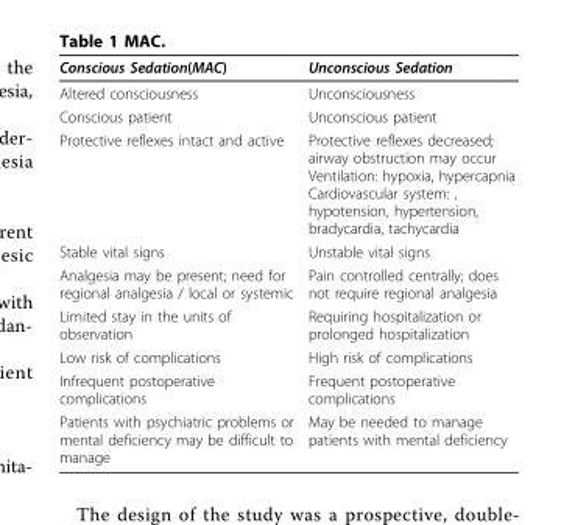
<table><thead><tr><td>Conscious Sedation(MAC)</td><td>Unconscious Sedation</td></tr></thead><tbody><tr><td>Altered consciousness</td><td>Unconsciousness</td></tr><tr><td>Conscious patient</td><td>Unconscious patient</td></tr><tr><td>Protective reflexes intact and active</td><td>Protective reflexes decreased; airway obstruction may occur Ventilation: hypoxia, hypercapnia Cardiovascular system: , hypotension, hypertension, bradycardia, tachycardia</td></tr><tr><td>Stable vital signs</td><td>Unstable vital signs</td></tr><tr><td>Analgesia may be present; need for regional analgesia / local or systemic</td><td>Pain controlled centrally; does not require regional analgesia</td></tr><tr><td>Limited stay in the units of observation</td><td>Requiring hospitalization or prolonged hospitalization</td></tr><tr><td>Low risk of complications</td><td>High risk of complications</td></tr><tr><td>Infrequent postoperative complications</td><td>Frequent postoperative complications</td></tr><tr><td>Patients with psychiatric problems or mental deficiency may be difficult to manage</td><td>May be needed to manage patients with mental deficiency</td></tr></tbody></table>